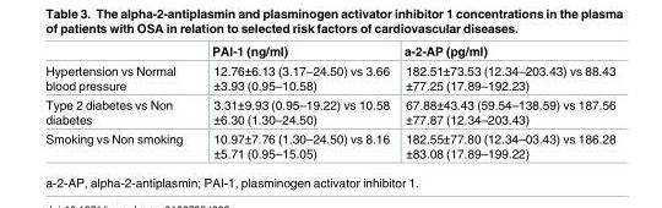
<table><thead><tr><td></td><td>PAI-1 (ng/ml)</td><td>a-2-AP (pg/ml)</td></tr></thead><tbody><tr><td>Hypertension vs Normal blood pressure</td><td>12.76±6.13 (3.17–24.50) vs 3.66 ±3.93 (0.95–10.58)</td><td>182.51±73.53 (12.34–203.43) vs 88.43 ±77.25 (17.89–192.23)</td></tr><tr><td>Type 2 diabetes vs Non diabetes</td><td>3.31±9.93 (0.95–19.22) vs 10.58 ±6.30 (1.30–24.50)</td><td>67.88±43.43 (59.54–138.59) vs 187.56 ±77.87 (12.34–203.43)</td></tr><tr><td>Smoking vs Non smoking</td><td>10.97±7.76 (1.30–24.50) vs 8.16 ±5.71 (0.95–15.05)</td><td>182.55±77.80 (12.34–03.43) vs 186.28 ±83.08 (17.89–199.22)</td></tr></tbody></table>